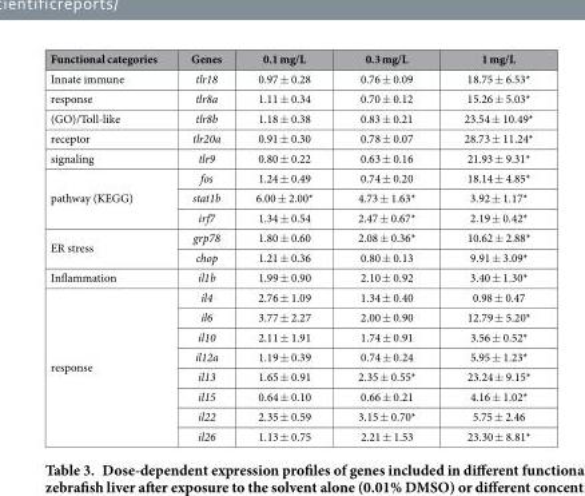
<table><thead><tr><td>Functional categories</td><td>Genes</td><td>0.1 mg/L</td><td>0.3 mg/L</td><td>1 mg/L</td></tr></thead><tbody><tr><td>Innate immune</td><td>tlr18</td><td>0.97 ± 0.28</td><td>0.76 ± 0.09</td><td>18.75 ± 6.53*</td></tr><tr><td>response</td><td>tlr8a</td><td>1.11 ± 0.34</td><td>0.70 ± 0.12</td><td>15.26 ± 5.03*</td></tr><tr><td>(GO)/Toll-like</td><td>tlr8b</td><td>1.18 ± 0.38</td><td>0.83 ± 0.21</td><td>23.54 ± 10.49*</td></tr><tr><td>receptor</td><td>tlr20a</td><td>0.91 ± 0.30</td><td>0.78 ± 0.07</td><td>28.73 ± 11.24*</td></tr><tr><td>signaling</td><td>tlr9</td><td>0.80 ± 0.22</td><td>0.63 ± 0.16</td><td>21.93 ± 9.31*</td></tr><tr><td rowspan="3">pathway (KEGG)</td><td>fos</td><td>1.24 ± 0.49</td><td>0.74 ± 0.20</td><td>18.14 ± 4.85*</td></tr><tr><td>stat1b</td><td>6.00 ± 2.00*</td><td>4.73 ± 1.63*</td><td>3.92 ± 1.17*</td></tr><tr><td>irf7</td><td>1.34 ± 0.54</td><td>2.47 ± 0.67*</td><td>2.19 ± 0.42*</td></tr><tr><td rowspan="2">ER stress</td><td>grp78</td><td>1.80 ± 0.60</td><td>2.08 ± 0.36*</td><td>10.62 ± 2.88*</td></tr><tr><td>chop</td><td>1.21 ± 0.36</td><td>0.80 ± 0.13</td><td>9.91 ± 3.09*</td></tr><tr><td>Inflammation</td><td>il1b</td><td>1.99 ± 0.90</td><td>2.10 ± 0.92</td><td>3.40 ± 1.30*</td></tr><tr><td rowspan="8">response</td><td>il4</td><td>2.76 ± 1.09</td><td>1.34 ± 0.40</td><td>0.98 ± 0.47</td></tr><tr><td>il6</td><td>3.77 ± 2.27</td><td>2.00 ± 0.90</td><td>12.79 ± 5.20*</td></tr><tr><td>il10</td><td>2.11 ± 1.91</td><td>1.74 ± 0.91</td><td>3.56 ± 0.52*</td></tr><tr><td>il12a</td><td>1.19 ± 0.39</td><td>0.74 ± 0.24</td><td>5.95 ± 1.23*</td></tr><tr><td>il13</td><td>1.65 ± 0.91</td><td>2.35 ± 0.55*</td><td>23.24 ± 9.15*</td></tr><tr><td>il15</td><td>0.64 ± 0.10</td><td>0.66 ± 0.21</td><td>4.16 ± 1.02*</td></tr><tr><td>il22</td><td>2.35 ± 0.59</td><td>3.15 ± 0.70*</td><td>5.75 ± 2.46</td></tr><tr><td>il26</td><td>1.13 ± 0.75</td><td>2.21 ± 1.53</td><td>23.30 ± 8.81*</td></tr></tbody></table>